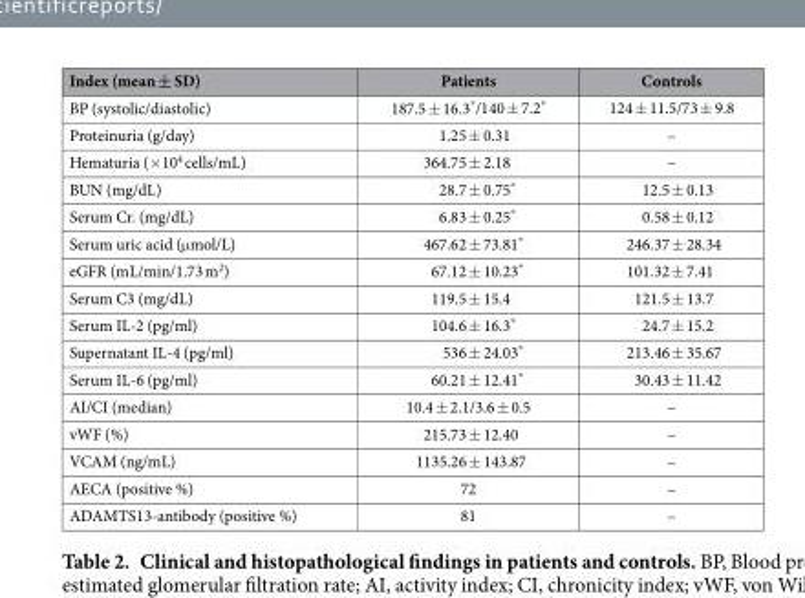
<table><thead><tr><td>Index (mean ± SD)</td><td>Patients</td><td>Controls</td></tr></thead><tbody><tr><td>BP (systolic/diastolic)</td><td>187.5 ± 16.3*/140 ± 7.2*</td><td>124 ± 11.5/73 ± 9.8</td></tr><tr><td>Proteinuria (g/day)</td><td>1.25 ± 0.31</td><td>–</td></tr><tr><td>Hematuria (× 10<sup>4</sup> cells/mL)</td><td>364.75 ± 2.18</td><td>–</td></tr><tr><td>BUN (mg/dL)</td><td>28.7 ± 0.75*</td><td>12.5 ± 0.13</td></tr><tr><td>Serum Cr. (mg/dL)</td><td>6.83 ± 0.25*</td><td>0.58 ± 0.12</td></tr><tr><td>Serum uric acid (μ mol/L)</td><td>467.62 ± 73.81*</td><td>246.37 ± 28.34</td></tr><tr><td>eGFR (mL/min/1.73 m<sup>2</sup>)</td><td>67.12 ± 10.23*</td><td>101.32 ± 7.41</td></tr><tr><td>Serum C3 (mg/dL)</td><td>119.5 ± 15.4</td><td>121.5 ± 13.7</td></tr><tr><td>Serum IL-2 (pg/ml)</td><td>104.6 ± 16.3*</td><td>24.7 ± 15.2</td></tr><tr><td>Supernatant IL-4 (pg/ml)</td><td>536 ± 24.03*</td><td>213.46 ± 35.67</td></tr><tr><td>Serum IL-6 (pg/ml)</td><td>60.21 ± 12.41*</td><td>30.43 ± 11.42</td></tr><tr><td>AI/CI (median)</td><td>10.4 ± 2.1/3.6 ± 0.5</td><td>–</td></tr><tr><td>vWF (%)</td><td>215.73 ± 12.40</td><td>–</td></tr><tr><td>VCAM (ng/mL)</td><td>1135.26 ± 143.87</td><td>–</td></tr><tr><td>AECA (positive %)</td><td>72</td><td>–</td></tr><tr><td>ADAMTS13-antibody (positive %)</td><td>81</td><td>–</td></tr></tbody></table>